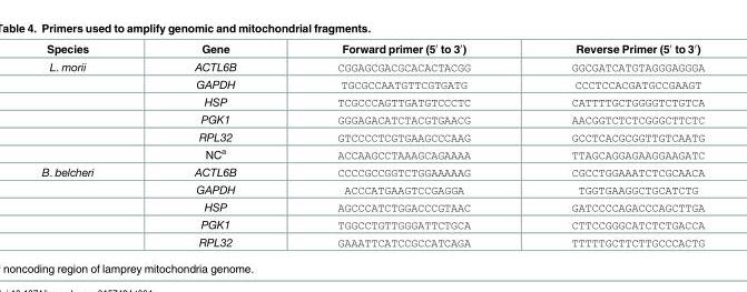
<table><thead><tr><td>Species</td><td>Gene</td><td>Forward primer (5′ to 3′)</td><td>Reverse Primer (5′ to 3′)</td></tr></thead><tbody><tr><td rowspan="6">L. morii</td><td>ACTL6B</td><td>CGGAGCGACGCACACTACGG</td><td>GGCGATCATGTAGGGAGGGA</td></tr><tr><td>GAPDH</td><td>TGCGCCAATGTTCGTGATG</td><td>CCCTCCACGATGCCGAAGT</td></tr><tr><td>HSP</td><td>TCGCCCAGTTGATGTCCCTC</td><td>CATTTTGCTGGGGTCTGTCA</td></tr><tr><td>PGK1</td><td>GGGAGACATCTACGTGAACG</td><td>AACGGTCTCTCGGGCTTCTC</td></tr><tr><td>RPL32</td><td>GTCCCCTCGTGAAGCCCAAG</td><td>GCCTCACGCGGTTGTCAATG</td></tr><tr><td>NC<sup>a</sup></td><td>ACCAAGCCTAAAGCAGAAAA</td><td>TTAGCAGGAGAAGGAAGATC</td></tr><tr><td rowspan="5">B. belcheri</td><td>ACTL6B</td><td>CCCCGCCGGTCTGGAAAAAG</td><td>CGCCTGGAAATCTCGCAACA</td></tr><tr><td>GAPDH</td><td>ACCCATGAAGTCCGAGGA</td><td>TGGTGAAGGCTGCATCTG</td></tr><tr><td>HSP</td><td>AGCCCATCTGGACCCGTAAC</td><td>GATCCCCAGACCCAGCTTGA</td></tr><tr><td>PGK1</td><td>TGGCCTGTTGGGATTCTGCA</td><td>CTTCCGGGCATCTCTGACCA</td></tr><tr><td>RPL32</td><td>GAAATTCATCCGCCATCAGA</td><td>TTTTTGCTTCTTGCCCACTG</td></tr></tbody></table>